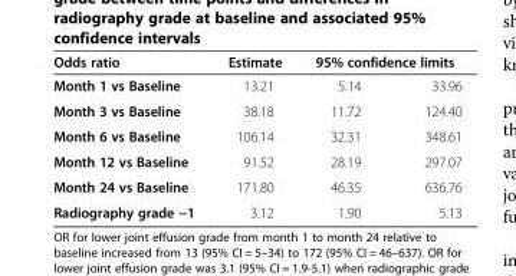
<table><thead><tr><td rowspan="2">Odds ratio Month 1 vs Baseline</td><td rowspan="2">Estimate 13.21</td><td colspan="2">95% confidence limits</td></tr><tr><td>5.14</td><td>33.96</td></tr></thead><tbody><tr><td>Month 3 vs Baseline</td><td>38.18</td><td>11.72</td><td>124.40</td></tr><tr><td>Month 6 vs Baseline</td><td>106.14</td><td>32.31</td><td>348.61</td></tr><tr><td>Month 12 vs Baseline</td><td>91.52</td><td>28.19</td><td>297.07</td></tr><tr><td>Month 24 vs Baseline</td><td>171.80</td><td>46.35</td><td>636.76</td></tr><tr><td>Radiography grade −1</td><td>3.12</td><td>1.90</td><td>5.13</td></tr></tbody></table>